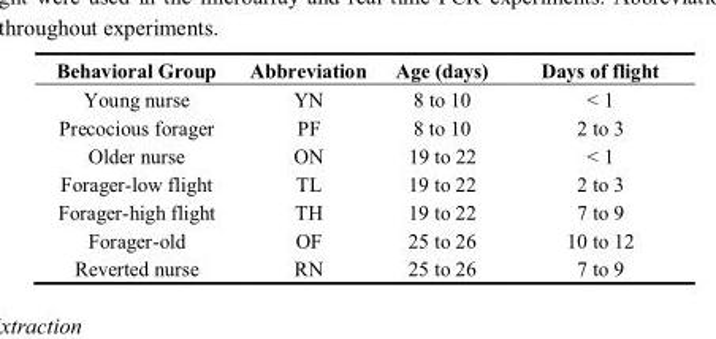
<table><thead><tr><td>Behavioral Group</td><td>Abbreviation</td><td>Age (days)</td><td>Days of flight</td></tr></thead><tbody><tr><td>Young nurse</td><td>YN</td><td>8 to 10</td><td>&lt; 1</td></tr><tr><td>Precocious forager</td><td>PF</td><td>8 to 10</td><td>2 to 3</td></tr><tr><td>Older nurse</td><td>ON</td><td>19 to 22</td><td>&lt; 1</td></tr><tr><td>Forager-low flight</td><td>TL</td><td>19 to 22</td><td>2 to 3</td></tr><tr><td>Forager-high flight</td><td>TH</td><td>19 to 22</td><td>7 to 9</td></tr><tr><td>Forager-old</td><td>OF</td><td>25 to 26</td><td>10 to 12</td></tr><tr><td>Reverted nurse</td><td>RN</td><td>25 to 26</td><td>7 to 9</td></tr></tbody></table>